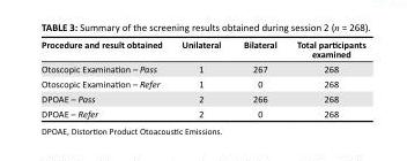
<table><thead><tr><td>Procedure and result obtained</td><td>Unilateral</td><td>Bilateral</td><td>Total participants examined</td></tr></thead><tbody><tr><td>Otoscopic Examination – Pass</td><td>1</td><td>267</td><td>268</td></tr><tr><td>Otoscopic Examination – Refer</td><td>1</td><td>0</td><td>268</td></tr><tr><td>DPOAE – Pass</td><td>2</td><td>266</td><td>268</td></tr><tr><td>DPOAE – Refer</td><td>2</td><td>0</td><td>268</td></tr></tbody></table>